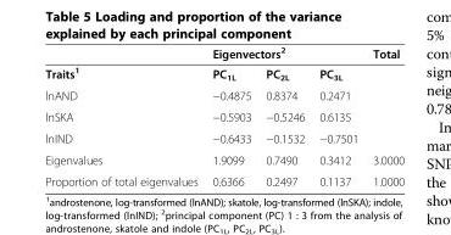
<table><thead><tr><td rowspan="2">Traits<sup>1</sup></td><td colspan="3">Eigenvectors<sup>2</sup></td><td rowspan="2">Total</td></tr><tr><td>PC<sub>1L</sub></td><td>PC<sub>2L</sub></td><td>PC<sub>3L</sub></td></tr></thead><tbody><tr><td>lnAND</td><td>−0.4875</td><td>0.8374</td><td>0.2471</td><td></td></tr><tr><td>lnSKA</td><td>−0.5903</td><td>−0.5246</td><td>0.6135</td><td></td></tr><tr><td>lnIND</td><td>−0.6433</td><td>−0.1532</td><td>−0.7501</td><td></td></tr><tr><td>Eigenvalues</td><td>1.9099</td><td>0.7490</td><td>0.3412</td><td>3.0000</td></tr><tr><td>Proportion of total eigenvalues</td><td>0.6366</td><td>0.2497</td><td>0.1137</td><td>1.0000</td></tr></tbody></table>